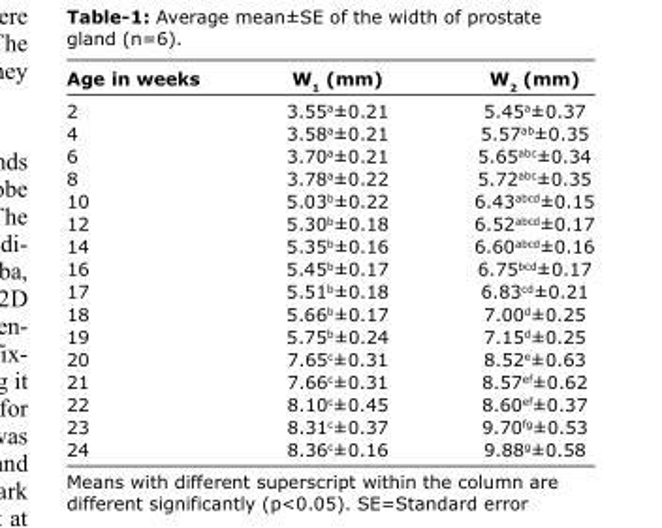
<table><thead><tr><td>Age in weeks</td><td>W<sub>1</sub> (mm)</td><td>W<sub>2</sub> (mm)</td></tr></thead><tbody><tr><td>2</td><td>3.55<sup>a</sup>±0.21</td><td>5.45<sup>a</sup>±0.37</td></tr><tr><td>4</td><td>3.58<sup>a</sup>±0.21</td><td>5.57<sup>ab</sup>±0.35</td></tr><tr><td>6</td><td>3.70<sup>a</sup>±0.21</td><td>5.65<sup>abc</sup>±0.34</td></tr><tr><td>8</td><td>3.78<sup>a</sup>±0.22</td><td>5.72<sup>abc</sup>±0.35</td></tr><tr><td>10</td><td>5.03<sup>b</sup>±0.22</td><td>6.43<sup>abcd</sup>±0.15</td></tr><tr><td>12</td><td>5.30<sup>b</sup>±0.18</td><td>6.52<sup>abcd</sup>±0.17</td></tr><tr><td>14</td><td>5.35<sup>b</sup>±0.16</td><td>6.60<sup>abcd</sup>±0.16</td></tr><tr><td>16</td><td>5.45<sup>b</sup>±0.17</td><td>6.75<sup>bcd</sup>±0.17</td></tr><tr><td>17</td><td>5.51<sup>b</sup>±0.18</td><td>6.83<sup>cd</sup>±0.21</td></tr><tr><td>18</td><td>5.66<sup>b</sup>±0.17</td><td>7.00<sup>d</sup>±0.25</td></tr><tr><td>19</td><td>5.75<sup>b</sup>±0.24</td><td>7.15<sup>d</sup>±0.25</td></tr><tr><td>20</td><td>7.65<sup>c</sup>±0.31</td><td>8.52<sup>e</sup>±0.63</td></tr><tr><td>21</td><td>7.66<sup>c</sup>±0.31</td><td>8.57<sup>ef</sup>±0.62</td></tr><tr><td>22</td><td>8.10<sup>c</sup>±0.45</td><td>8.60<sup>ef</sup>±0.37</td></tr><tr><td>23</td><td>8.31<sup>c</sup>±0.37</td><td>9.70<sup>fg</sup>±0.53</td></tr><tr><td>24</td><td>8.36<sup>c</sup>±0.16</td><td>9.88<sup>g</sup>±0.58</td></tr></tbody></table>